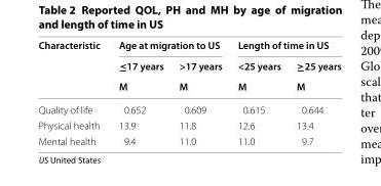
<table><thead><tr><td rowspan="3">Characteristic</td><td colspan="2">Age at migration to US</td><td colspan="2">Length of time in US</td></tr><tr><td rowspan="2">≤17 years M</td><td rowspan="2">&gt;17 years M</td><td rowspan="2">&lt;25 years M</td><td rowspan="2">≥25 years M</td></tr><tr></tr></thead><tbody><tr><td>Quality of life</td><td>0.652</td><td>0.609</td><td>0.615</td><td>0.644</td></tr><tr><td>Physical health</td><td>13.9</td><td>11.8</td><td>12.6</td><td>13.4</td></tr><tr><td>Mental health</td><td>9.4</td><td>11.0</td><td>11.0</td><td>9.7</td></tr></tbody></table>